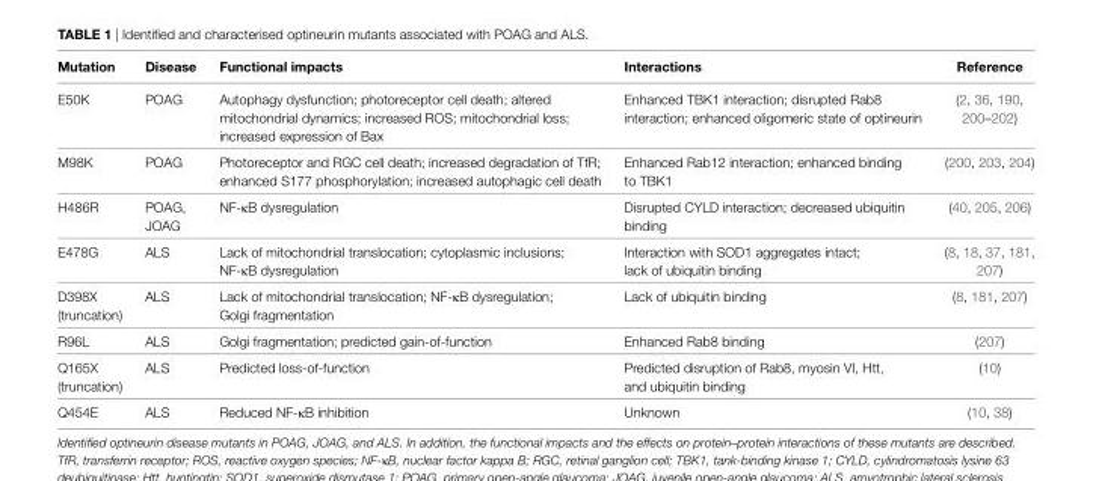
<table><thead><tr><td>Mutation</td><td>Disease</td><td>Functional impacts</td><td>interactions</td><td>Reference</td></tr></thead><tbody><tr><td>E50K</td><td>POAG</td><td>Autophagy dysfunction; photoreceptor cell death; altered mitochondrial dynamics; increased ROS; mitochondrial loss; increased expression of Bax</td><td>Enhanced TBK1 interaction; disrupted Rab8 interaction; enhanced oligomeric state of optineurin</td><td>(2, 36, 190, 200–202)</td></tr><tr><td>M98K</td><td>POAG</td><td>Photoreceptor and RGC cell death; increased degradation of TfR; enhanced S177 phosphorylation; increased autophagic cell death</td><td>Enhanced Rab12 interaction; enhanced binding to TBK1</td><td>(200, 203, 204)</td></tr><tr><td>H486R</td><td>POAG, JOAG</td><td>NF-κB dysregulation</td><td>Disrupted CYLD interaction; decreased ubiquitin binding</td><td>(40, 205, 206)</td></tr><tr><td>E478G</td><td>ALS</td><td>Lack of mitochondrial translocation; cytoplasmic inclusions; NF-κB dysregulation</td><td>Interaction with SOD1 aggregates intact; lack of ubiquitin binding</td><td>(8, 18, 37, 181, 207)</td></tr><tr><td>D398X (truncation)</td><td>ALS</td><td>Lack of mitochondrial translocation; NF-κB dysregulation; Golgi fragmentation</td><td>Lack of ubiquitin binding</td><td>(8, 181, 207)</td></tr><tr><td>R96L</td><td>ALS</td><td>Golgi fragmentation; predicted gain-of-function</td><td>Enhanced Rab8 binding</td><td>(207)</td></tr><tr><td>Q165X (truncation)</td><td>ALS</td><td>Predicted loss-of-function</td><td>Predicted disruption of Rab8, myosin VI, Htt, and ubiquitin binding</td><td>(10)</td></tr><tr><td>Q454E</td><td>ALS</td><td>Reduced NF-κB inhibition</td><td>Unknown</td><td>(10, 38)</td></tr></tbody></table>